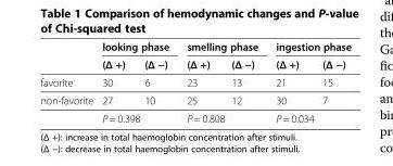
<table><thead><tr><td rowspan="2"></td><td colspan="2">looking phase</td><td colspan="2">smelling phase</td><td colspan="2">ingestion phase</td></tr><tr><td>(Δ +)</td><td>(Δ −)</td><td>(Δ +)</td><td>(Δ −)</td><td>(Δ +)</td><td>(Δ −)</td></tr></thead><tbody><tr><td>favorite</td><td>30</td><td>6</td><td>23</td><td>13</td><td>21</td><td>15</td></tr><tr><td rowspan="2">non-favorite</td><td>27</td><td>10</td><td>25</td><td>12</td><td>30</td><td>7</td></tr><tr><td colspan="2">P = 0.398</td><td colspan="2">P = 0.808</td><td colspan="2">P = 0.034</td></tr></tbody></table>